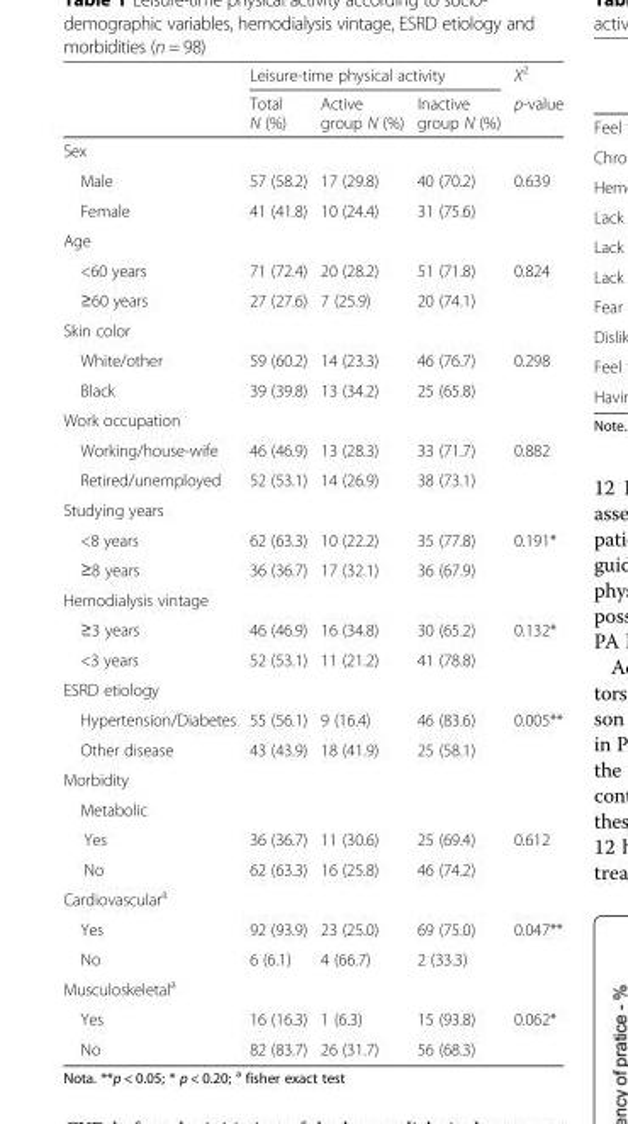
<table><thead><tr><td rowspan="2"></td><td colspan="3">Leisure-time physical activity</td><td rowspan="2">X<sup>2</sup> p-value</td></tr><tr><td>Total N (%)</td><td>Active group N (%)</td><td>Inactive group N (%)</td></tr></thead><tbody><tr><td colspan="5">Sex</td></tr><tr><td>Male</td><td>57 (58.2)</td><td>17 (29.8)</td><td>40 (70.2)</td><td>0.639</td></tr><tr><td>Female</td><td>41 (41.8)</td><td>10 (24.4)</td><td>31 (75.6)</td><td></td></tr><tr><td colspan="5">Age</td></tr><tr><td>&lt;60 years</td><td>71 (72.4)</td><td>20 (28.2)</td><td>51 (71.8)</td><td>0.824</td></tr><tr><td>≥60 years</td><td>27 (27.6)</td><td>7 (25.9)</td><td>20 (74.1)</td><td></td></tr><tr><td colspan="5">Skin color</td></tr><tr><td>White/other</td><td>59 (60.2)</td><td>14 (23.3)</td><td>46 (76.7)</td><td>0.298</td></tr><tr><td>Black</td><td>39 (39.8)</td><td>13 (34.2)</td><td>25 (65.8)</td><td></td></tr><tr><td colspan="5">Work occupation</td></tr><tr><td>Working/house-wife</td><td>46 (46.9)</td><td>13 (28.3)</td><td>33 (71.7)</td><td>0.882</td></tr><tr><td>Retired/unemployed</td><td>52 (53.1)</td><td>14 (26.9)</td><td>38 (73.1)</td><td></td></tr><tr><td colspan="5">Studying years</td></tr><tr><td>&lt;8 years</td><td>62 (63.3)</td><td>10 (22.2)</td><td>35 (77.8)</td><td>0.191*</td></tr><tr><td>≥8 years</td><td>36 (36.7)</td><td>17 (32.1)</td><td>36 (67.9)</td><td></td></tr><tr><td colspan="5">Hemodialysis vintage</td></tr><tr><td>≥3 years</td><td>46 (46.9)</td><td>16 (34.8)</td><td>30 (65.2)</td><td>0.132*</td></tr><tr><td>&lt;3 years</td><td>52 (53.1)</td><td>11 (21.2)</td><td>41 (78.8)</td><td></td></tr><tr><td colspan="5">ESRD etiology</td></tr><tr><td>Hypertension/Diabetes</td><td>55 (56.1)</td><td>9 (16.4)</td><td>46 (83.6)</td><td>0.005**</td></tr><tr><td>Other disease</td><td>43 (43.9)</td><td>18 (41.9)</td><td>25 (58.1)</td><td></td></tr><tr><td colspan="5">Morbidity</td></tr><tr><td colspan="5">Metabolic</td></tr><tr><td>Yes</td><td>36 (36.7)</td><td>11 (30.6)</td><td>25 (69.4)</td><td>0.612</td></tr><tr><td>No</td><td>62 (63.3)</td><td>16 (25.8)</td><td>46 (74.2)</td><td></td></tr><tr><td colspan="5">Cardiovascular<sup>a</sup></td></tr><tr><td>Yes</td><td>92 (93.9)</td><td>23 (25.0)</td><td>69 (75.0)</td><td>0.047**</td></tr><tr><td>No</td><td>6 (6.1)</td><td>4 (66.7)</td><td>2 (33.3)</td><td></td></tr><tr><td colspan="5">Musculoskeletal<sup>a</sup></td></tr><tr><td>Yes</td><td>16 (16.3)</td><td>1 (6.3)</td><td>15 (93.8)</td><td>0.062*</td></tr><tr><td>No</td><td>82 (83.7)</td><td>26 (31.7)</td><td>56 (68.3)</td><td></td></tr></tbody></table>